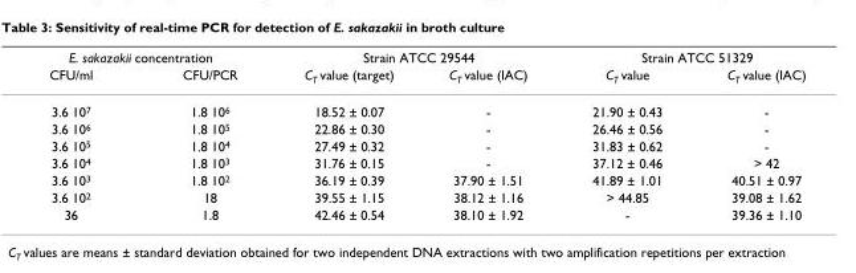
<table><thead><tr><td colspan="2">E. sakazakii concentration</td><td colspan="2">Strain ATCC 29544</td><td colspan="2">Strain ATCC 51329</td></tr><tr><td>CFU/ml</td><td>CFU/PCR</td><td>CT value (target)</td><td>CT value (IAC)</td><td>CT value</td><td>CT value (IAC)</td></tr></thead><tbody><tr><td>3.6 107</td><td>1.8 106</td><td>18.52 ± 0.07</td><td>-</td><td>21.90 ± 0.43</td><td>-</td></tr><tr><td>3.6 106</td><td>1.8 105</td><td>22.86 ± 0.30</td><td>-</td><td>26.46 ± 0.56</td><td>-</td></tr><tr><td>3.6 105</td><td>1.8 104</td><td>27.49 ± 0.32</td><td>-</td><td>31.83 ± 0.62</td><td>-</td></tr><tr><td>3.6 104</td><td>1.8 103</td><td>31.76 ± 0.15</td><td>-</td><td>37.12 ± 0.46</td><td>&gt; 42</td></tr><tr><td>3.6 103</td><td>1.8 102</td><td>36.19 ± 0.39</td><td>37.90 ± 1.51</td><td>41.89 ± 1.01</td><td>40.51 ± 0.97</td></tr><tr><td>3.6 102</td><td>18</td><td>39.55 ± 1.15</td><td>38.12 ± 1.16</td><td>&gt; 44.85</td><td>39.08 ± 1.62</td></tr><tr><td>36</td><td>1.8</td><td>42.46 ± 0.54</td><td>38.10 ± 1.92</td><td>-</td><td>39.36 ± 1.10</td></tr></tbody></table>